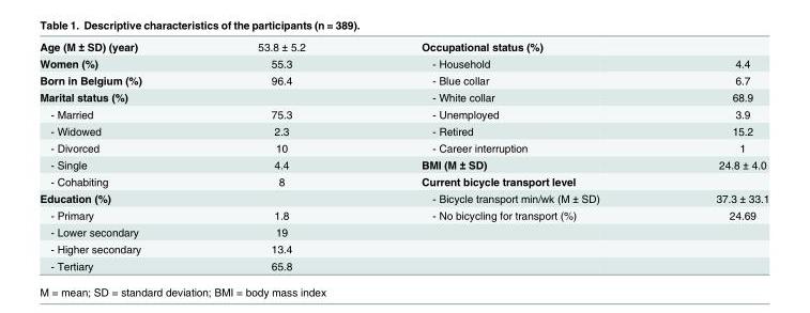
<table><tbody><tr><td>Age (M ± SD) (year)</td><td>53.8 ± 5.2</td><td>Occupational status (%)</td><td></td></tr><tr><td>Women (%)</td><td>55.3</td><td>- Household</td><td>4.4</td></tr><tr><td>Born in Belgium (%)</td><td>96.4</td><td>- Blue collar</td><td>6.7</td></tr><tr><td>Marital status (%)</td><td></td><td>- White collar</td><td>68.9</td></tr><tr><td>- Married</td><td>75.3</td><td>- Unemployed</td><td>3.9</td></tr><tr><td>- Widowed</td><td>2.3</td><td>- Retired</td><td>15.2</td></tr><tr><td>- Divorced</td><td>10</td><td>- Career interruption</td><td>1</td></tr><tr><td>- Single</td><td>4.4</td><td>BMI (M ± SD)</td><td>24.8 ± 4.0</td></tr><tr><td>- Cohabiting</td><td>8</td><td>Current bicycle transport level</td><td></td></tr><tr><td>Education (%)</td><td></td><td>- Bicycle transport min/wk (M ± SD)</td><td>37.3 ± 33.1</td></tr><tr><td>- Primary</td><td>1.8</td><td>- No bicycling for transport (%)</td><td>24.69</td></tr><tr><td>- Lower secondary</td><td>19</td><td></td><td></td></tr><tr><td>- Higher secondary</td><td>13.4</td><td></td><td></td></tr><tr><td>- Tertiary</td><td>65.8</td><td></td><td></td></tr></tbody></table>